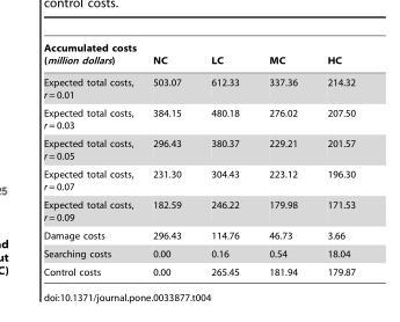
<table><thead><tr><td>Accumulated costs (million dollars)</td><td>NC</td><td>LC</td><td>MC</td><td>HC</td></tr></thead><tbody><tr><td>Expected total costs, r = 0.01</td><td>503.07</td><td>612.33</td><td>337.36</td><td>214.32</td></tr><tr><td>Expected total costs, r = 0.03</td><td>384.15</td><td>480.18</td><td>276.02</td><td>207.50</td></tr><tr><td>Expected total costs, r = 0.05</td><td>296.43</td><td>380.37</td><td>229.21</td><td>201.57</td></tr><tr><td>Expected total costs, r = 0.07</td><td>231.30</td><td>304.43</td><td>223.12</td><td>196.30</td></tr><tr><td>Expected total costs, r = 0.09</td><td>182.59</td><td>246.22</td><td>179.98</td><td>171.53</td></tr><tr><td>Damage costs</td><td>296.43</td><td>114.76</td><td>46.73</td><td>3.66</td></tr><tr><td>Searching costs</td><td>0.00</td><td>0.16</td><td>0.54</td><td>18.04</td></tr><tr><td>Control costs</td><td>0.00</td><td>265.45</td><td>181.94</td><td>179.87</td></tr></tbody></table>